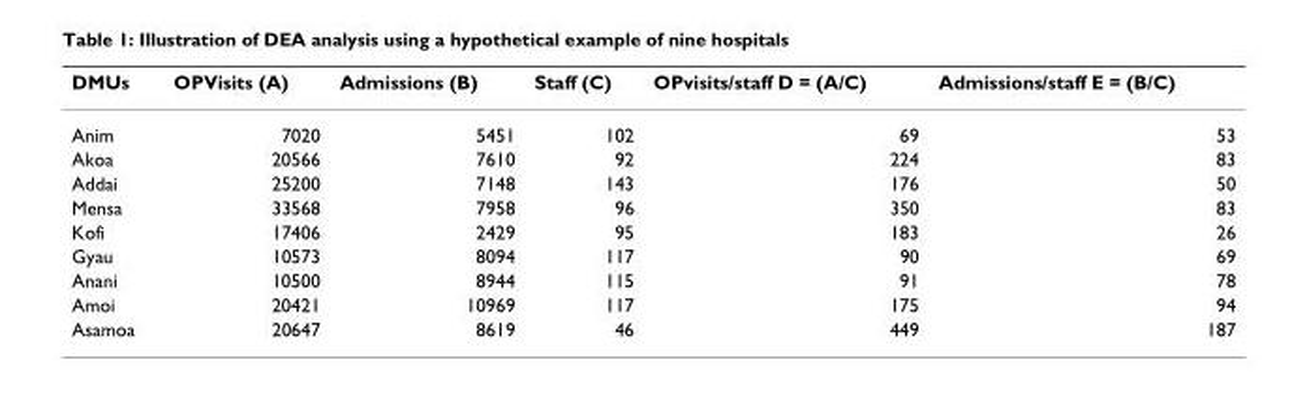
<table><thead><tr><td>DMUs</td><td>OPVisits (A)</td><td>Admissions (B)</td><td>Staff (C)</td><td>OPvisits/staff D = (A/C)</td><td>Admissions/staff E = (B/C)</td></tr></thead><tbody><tr><td>Anim</td><td>7020</td><td>5451</td><td>102</td><td>69</td><td>53</td></tr><tr><td>Akoa</td><td>20566</td><td>7610</td><td>92</td><td>224</td><td>83</td></tr><tr><td>Addai</td><td>25200</td><td>7148</td><td>143</td><td>176</td><td>50</td></tr><tr><td>Mensa</td><td>33568</td><td>7958</td><td>96</td><td>350</td><td>83</td></tr><tr><td>Kofi</td><td>17406</td><td>2429</td><td>95</td><td>183</td><td>26</td></tr><tr><td>Gyau</td><td>10573</td><td>8094</td><td>117</td><td>90</td><td>69</td></tr><tr><td>Anani</td><td>10500</td><td>8944</td><td>115</td><td>91</td><td>78</td></tr><tr><td>Amoi</td><td>20421</td><td>10969</td><td>117</td><td>175</td><td>94</td></tr><tr><td>Asamoa</td><td>20647</td><td>8619</td><td>46</td><td>449</td><td>187</td></tr></tbody></table>